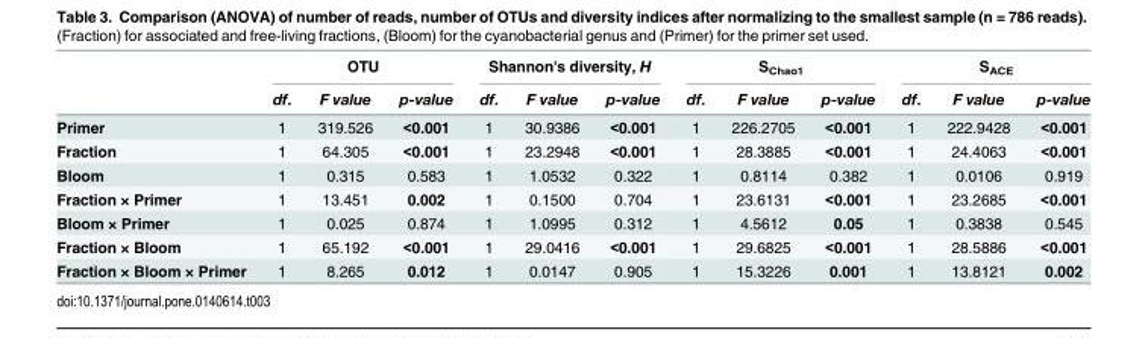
<table><thead><tr><td rowspan="2"></td><td colspan="3">OTU</td><td colspan="3">Shannon&#x27;s diversity, H</td><td colspan="3">S<sub>Chao1</sub></td><td colspan="3">S<sub>ACE</sub></td></tr><tr><td>df.</td><td>F value</td><td>p-value</td><td>df.</td><td>F value</td><td>p-value</td><td>df.</td><td>F value</td><td>p-value</td><td>df.</td><td>F value</td><td>p-value</td></tr></thead><tbody><tr><td>Primer</td><td>1</td><td>319.526</td><td>&lt;0.001</td><td>1</td><td>30.9386</td><td>&lt;0.001</td><td>1</td><td>226.2705</td><td>&lt;0.001</td><td>1</td><td>222.9428</td><td>&lt;0.001</td></tr><tr><td>Fraction</td><td>1</td><td>64.305</td><td>&lt;0.001</td><td>1</td><td>23.2948</td><td>&lt;0.001</td><td>1</td><td>28.3885</td><td>&lt;0.001</td><td>1</td><td>24.4063</td><td>&lt;0.001</td></tr><tr><td>Bloom</td><td>1</td><td>0.315</td><td>0.583</td><td>1</td><td>1.0532</td><td>0.322</td><td>1</td><td>0.8114</td><td>0.382</td><td>1</td><td>0.0106</td><td>0.919</td></tr><tr><td>Fraction × Primer</td><td>1</td><td>13.451</td><td>0.002</td><td>1</td><td>0.1500</td><td>0.704</td><td>1</td><td>23.6131</td><td>&lt;0.001</td><td>1</td><td>23.2685</td><td>&lt;0.001</td></tr><tr><td>Bloom × Primer</td><td>1</td><td>0.025</td><td>0.874</td><td>1</td><td>1.0995</td><td>0.312</td><td>1</td><td>4.5612</td><td>0.05</td><td>1</td><td>0.3838</td><td>0.545</td></tr><tr><td>Fraction × Bloom</td><td>1</td><td>65.192</td><td>&lt;0.001</td><td>1</td><td>29.0416</td><td>&lt;0.001</td><td>1</td><td>29.6825</td><td>&lt;0.001</td><td>1</td><td>28.5886</td><td>&lt;0.001</td></tr><tr><td>Fraction × Bloom × Primer</td><td>1</td><td>8.265</td><td>0.012</td><td>1</td><td>0.0147</td><td>0.905</td><td>1</td><td>15.3226</td><td>0.001</td><td>1</td><td>13.8121</td><td>0.002</td></tr></tbody></table>